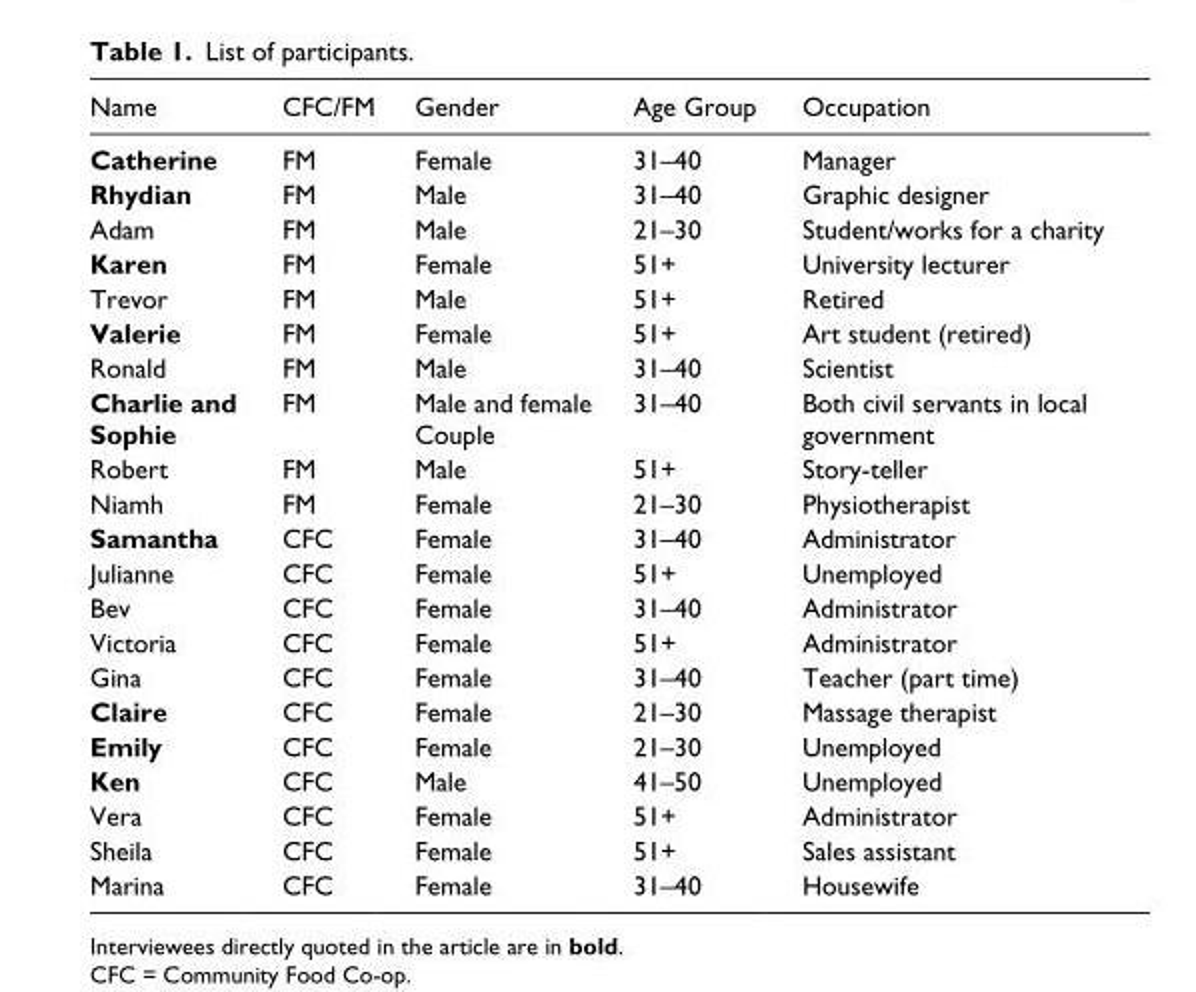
<table><thead><tr><td>Name</td><td>CFC/FM</td><td>Gender</td><td>Age Group</td><td>Occupation</td></tr></thead><tbody><tr><td>Catherine</td><td>FM</td><td>Female</td><td>31–40</td><td>Manager</td></tr><tr><td>Rhydian</td><td>FM</td><td>Male</td><td>31–40</td><td>Graphic designer</td></tr><tr><td>Adam</td><td>FM</td><td>Male</td><td>21–30</td><td>Student/works for a charity</td></tr><tr><td>Karen</td><td>FM</td><td>Female</td><td>51+</td><td>University lecturer</td></tr><tr><td>Trevor</td><td>FM</td><td>Male</td><td>51+</td><td>Retired</td></tr><tr><td>Valerie</td><td>FM</td><td>Female</td><td>51+</td><td>Art student (retired)</td></tr><tr><td>Ronald</td><td>FM</td><td>Male</td><td>31–40</td><td>Scientist</td></tr><tr><td>Charlie and Sophie</td><td>FM</td><td>Male and female Couple</td><td>31–40</td><td>Both civil servants in local government</td></tr><tr><td>Robert</td><td>FM</td><td>Male</td><td>51+</td><td>Story-teller</td></tr><tr><td>Niamh</td><td>FM</td><td>Female</td><td>21–30</td><td>Physiotherapist</td></tr><tr><td>Samantha</td><td>CFC</td><td>Female</td><td>31–40</td><td>Administrator</td></tr><tr><td>Julianne</td><td>CFC</td><td>Female</td><td>51+</td><td>Unemployed</td></tr><tr><td>Bev</td><td>CFC</td><td>Female</td><td>31–40</td><td>Administrator</td></tr><tr><td>Victoria</td><td>CFC</td><td>Female</td><td>51+</td><td>Administrator</td></tr><tr><td>Gina</td><td>CFC</td><td>Female</td><td>31–40</td><td>Teacher (part time)</td></tr><tr><td>Claire</td><td>CFC</td><td>Female</td><td>21–30</td><td>Massage therapist</td></tr><tr><td>Emily</td><td>CFC</td><td>Female</td><td>21–30</td><td>Unemployed</td></tr><tr><td>Ken</td><td>CFC</td><td>Male</td><td>41–50</td><td>Unemployed</td></tr><tr><td>Vera</td><td>CFC</td><td>Female</td><td>51+</td><td>Administrator</td></tr><tr><td>Sheila</td><td>CFC</td><td>Female</td><td>51+</td><td>Sales assistant</td></tr><tr><td>Marina</td><td>CFC</td><td>Female</td><td>31–40</td><td>Housewife</td></tr></tbody></table>